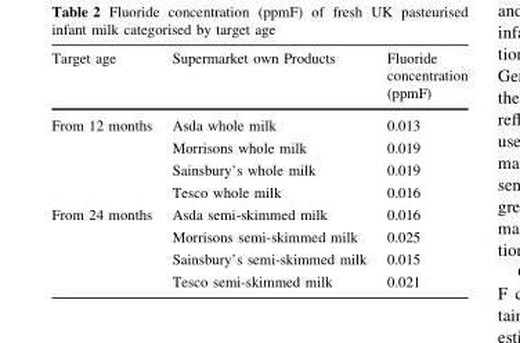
<table><thead><tr><td>Target age</td><td>Supermarket own Products</td><td>Fluoride concentration (ppmF)</td></tr></thead><tbody><tr><td rowspan="4">From 12 months</td><td>Asda whole milk</td><td>0.013</td></tr><tr><td>Morrisons whole milk</td><td>0.019</td></tr><tr><td>Sainsbury’s whole milk</td><td>0.019</td></tr><tr><td>Tesco whole milk</td><td>0.016</td></tr><tr><td rowspan="4">From 24 months</td><td>Asda semi-skimmed milk</td><td>0.016</td></tr><tr><td>Morrisons semi-skimmed milk</td><td>0.025</td></tr><tr><td>Sainsbury’s semi-skimmed milk</td><td>0.015</td></tr><tr><td>Tesco semi-skimmed milk</td><td>0.021</td></tr></tbody></table>